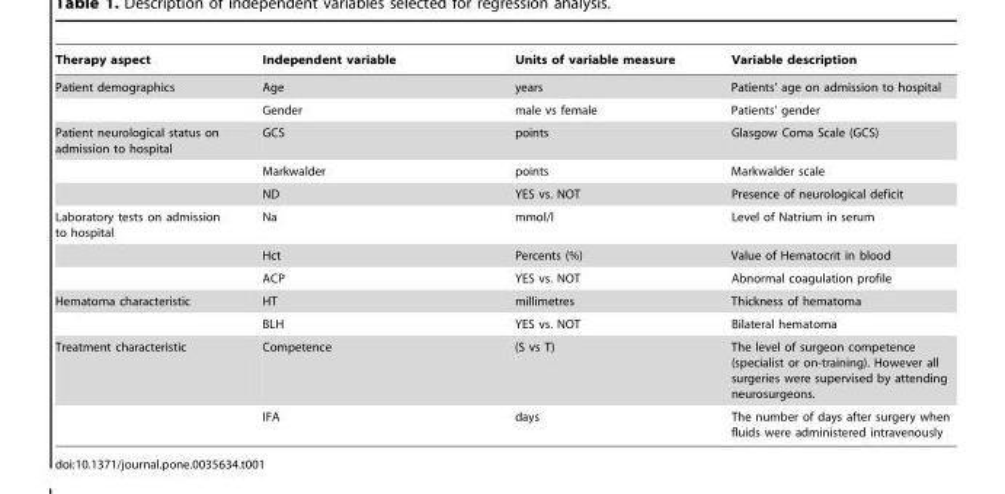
<table><thead><tr><td>Therapy aspect</td><td>Independent variable</td><td>Units of variable measure</td><td>Variable description</td></tr></thead><tbody><tr><td rowspan="2">Patient demographics</td><td>Age</td><td>years</td><td>Patients’ age on admission to hospital</td></tr><tr><td>Gender</td><td>male vs female</td><td>Patients’ gender</td></tr><tr><td rowspan="3">Patient neurological status on admission to hospital</td><td>GCS</td><td>points</td><td>Glasgow Coma Scale (GCS)</td></tr><tr><td>Markwalder</td><td>points</td><td>Markwalder scale</td></tr><tr><td>ND</td><td>YES vs. NOT</td><td>Presence of neurological deficit</td></tr><tr><td rowspan="3">Laboratory tests on admission to hospital</td><td>Na</td><td>mmol/l</td><td>Level of Natrium in serum</td></tr><tr><td>Hct</td><td>Percents (%)</td><td>Value of Hematocrit in blood</td></tr><tr><td>ACP</td><td>YES vs. NOT</td><td>Abnormal coagulation profile</td></tr><tr><td rowspan="2">Hematoma characteristic</td><td>HT</td><td>millimetres</td><td>Thickness of hematoma</td></tr><tr><td>BLH</td><td>YES vs. NOT</td><td>Bilateral hematoma</td></tr><tr><td rowspan="2">Treatment characteristic</td><td>Competence</td><td>(S vs T)</td><td>The level of surgeon competence (specialist or on-training). However all surgeries were supervised by attending neurosurgeons.</td></tr><tr><td>IFA</td><td>days</td><td>The number of days after surgery when fluids were administered intravenously</td></tr></tbody></table>